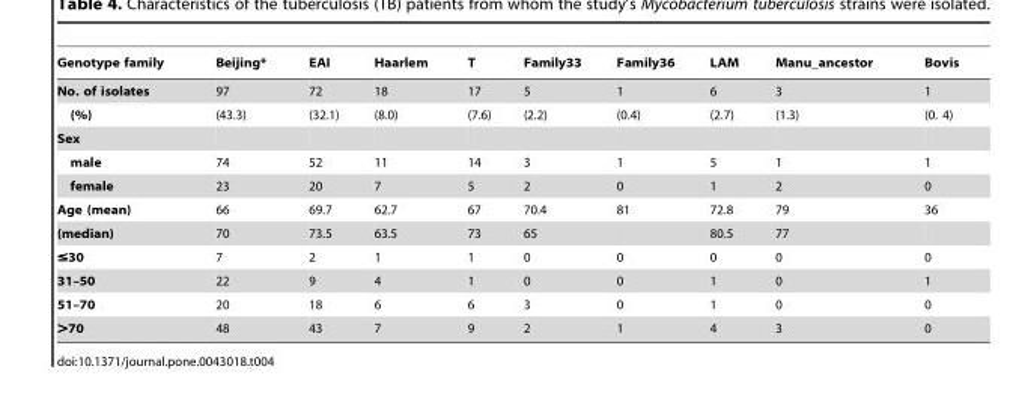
<table><thead><tr><td>Genotype family</td><td>Beijing*</td><td>EAI</td><td>Haarlem</td><td>T</td><td>Family33</td><td>Family36</td><td>LAM</td><td>Manu_ancestor</td><td>Bovis</td></tr></thead><tbody><tr><td>No. of isolates</td><td>97</td><td>72</td><td>18</td><td>17</td><td>5</td><td>1</td><td>6</td><td>3</td><td>1</td></tr><tr><td>(%)</td><td>(43.3)</td><td>(32.1)</td><td>(8.0)</td><td>(7.6)</td><td>(2.2)</td><td>(0.4)</td><td>(2.7)</td><td>(1.3)</td><td>(0. 4)</td></tr><tr><td colspan="10">Sex</td></tr><tr><td>male</td><td>74</td><td>52</td><td>11</td><td>14</td><td>3</td><td>1</td><td>5</td><td>1</td><td>1</td></tr><tr><td>female</td><td>23</td><td>20</td><td>7</td><td>5</td><td>2</td><td>0</td><td>1</td><td>2</td><td>0</td></tr><tr><td>Age (mean)</td><td>66</td><td>69.7</td><td>62.7</td><td>67</td><td>70.4</td><td>81</td><td>72.8</td><td>79</td><td>36</td></tr><tr><td>(median)</td><td>70</td><td>73.5</td><td>63.5</td><td>73</td><td>65</td><td></td><td>80.5</td><td>77</td><td></td></tr><tr><td>≤30</td><td>7</td><td>2</td><td>1</td><td>1</td><td>0</td><td>0</td><td>0</td><td>0</td><td>0</td></tr><tr><td>31–50</td><td>22</td><td>9</td><td>4</td><td>1</td><td>0</td><td>0</td><td>1</td><td>0</td><td>1</td></tr><tr><td>51–70</td><td>20</td><td>18</td><td>6</td><td>6</td><td>3</td><td>0</td><td>1</td><td>0</td><td>0</td></tr><tr><td>&gt;70</td><td>48</td><td>43</td><td>7</td><td>9</td><td>2</td><td>1</td><td>4</td><td>3</td><td>0</td></tr></tbody></table>